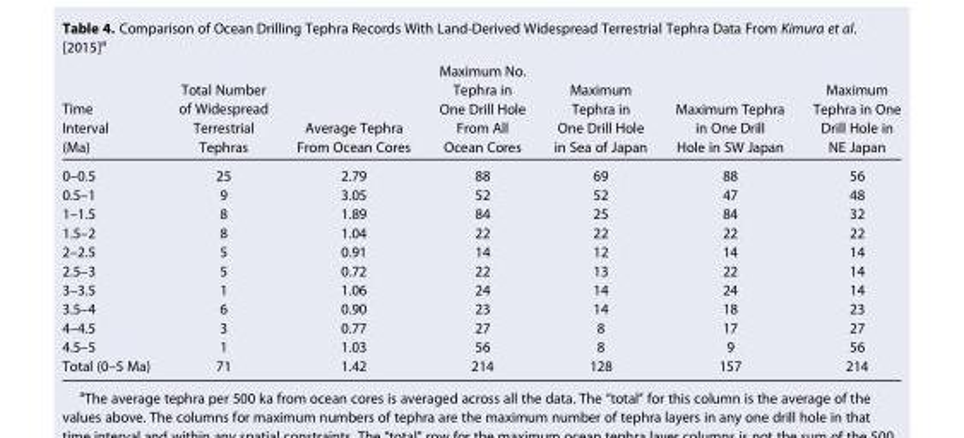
<table><thead><tr><td>Time Interval (Ma)</td><td>Total Number of Widespread Terrestrial Tephras</td><td>Average Tephra From Ocean Cores</td><td>Maximum No. Tephra in One Drill Hole From All Ocean Cores</td><td>Maximum Tephra in One Drill Hole in Sea of Japan</td><td>Maximum Tephra in One Drill Hole in SW Japan</td><td>Maximum Tephra in One Drill Hole in NE Japan</td></tr></thead><tbody><tr><td>0–0.5</td><td>25</td><td>2.79</td><td>88</td><td>69</td><td>88</td><td>56</td></tr><tr><td>0.5–1</td><td>9</td><td>3.05</td><td>52</td><td>52</td><td>47</td><td>48</td></tr><tr><td>1–1.5</td><td>8</td><td>1.89</td><td>84</td><td>25</td><td>84</td><td>32</td></tr><tr><td>1.5–2</td><td>8</td><td>1.04</td><td>22</td><td>22</td><td>22</td><td>22</td></tr><tr><td>2–2.5</td><td>5</td><td>0.91</td><td>14</td><td>12</td><td>14</td><td>14</td></tr><tr><td>2.5–3</td><td>5</td><td>0.72</td><td>22</td><td>13</td><td>22</td><td>14</td></tr><tr><td>3–3.5</td><td>1</td><td>1.06</td><td>24</td><td>14</td><td>24</td><td>14</td></tr><tr><td>3.5–4</td><td>6</td><td>0.90</td><td>23</td><td>14</td><td>18</td><td>23</td></tr><tr><td>4–4.5</td><td>3</td><td>0.77</td><td>27</td><td>8</td><td>17</td><td>27</td></tr><tr><td>4.5–5</td><td>1</td><td>1.03</td><td>56</td><td>8</td><td>9</td><td>56</td></tr><tr><td>Total (0–5 Ma)</td><td>71</td><td>1.42</td><td>214</td><td>128</td><td>157</td><td>214</td></tr></tbody></table>